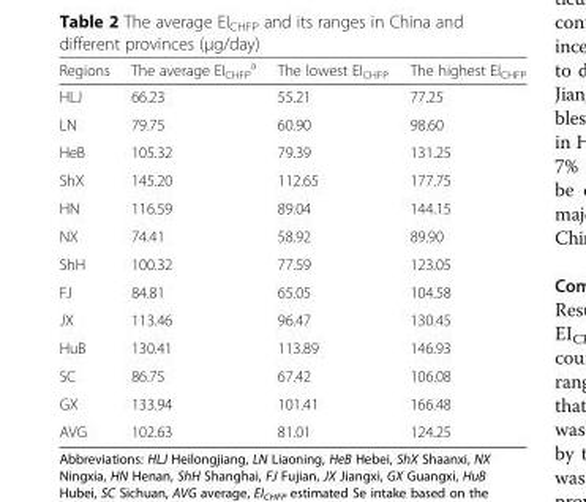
<table><thead><tr><td>Regions</td><td>The average EI<sub>CHFP</sub> <sup>a</sup></td><td>The lowest EI<sub>CHFP</sub></td><td>The highest EI<sub>CHFP</sub></td></tr></thead><tbody><tr><td>HLJ</td><td>66.23</td><td>55.21</td><td>77.25</td></tr><tr><td>LN</td><td>79.75</td><td>60.90</td><td>98.60</td></tr><tr><td>HeB</td><td>105.32</td><td>79.39</td><td>131.25</td></tr><tr><td>ShX</td><td>145.20</td><td>112.65</td><td>177.75</td></tr><tr><td>HN</td><td>116.59</td><td>89.04</td><td>144.15</td></tr><tr><td>NX</td><td>74.41</td><td>58.92</td><td>89.90</td></tr><tr><td>ShH</td><td>100.32</td><td>77.59</td><td>123.05</td></tr><tr><td>FJ</td><td>84.81</td><td>65.05</td><td>104.58</td></tr><tr><td>JX</td><td>113.46</td><td>96.47</td><td>130.45</td></tr><tr><td>HuB</td><td>130.41</td><td>113.89</td><td>146.93</td></tr><tr><td>SC</td><td>86.75</td><td>67.42</td><td>106.08</td></tr><tr><td>GX</td><td>133.94</td><td>101.41</td><td>166.48</td></tr><tr><td>AVG</td><td>102.63</td><td>81.01</td><td>124.25</td></tr></tbody></table>